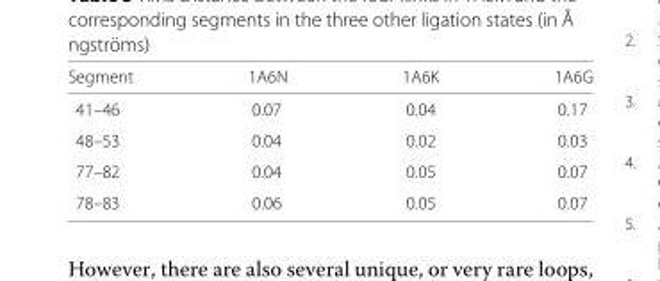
<table><thead><tr><td>Segment</td><td>1A6N</td><td>1A6K</td><td>1A6G</td></tr></thead><tbody><tr><td>41–46</td><td>0.07</td><td>0.04</td><td>0.17</td></tr><tr><td>48–53</td><td>0.04</td><td>0.02</td><td>0.03</td></tr><tr><td>77–82</td><td>0.04</td><td>0.05</td><td>0.07</td></tr><tr><td>78–83</td><td>0.06</td><td>0.05</td><td>0.07</td></tr></tbody></table>